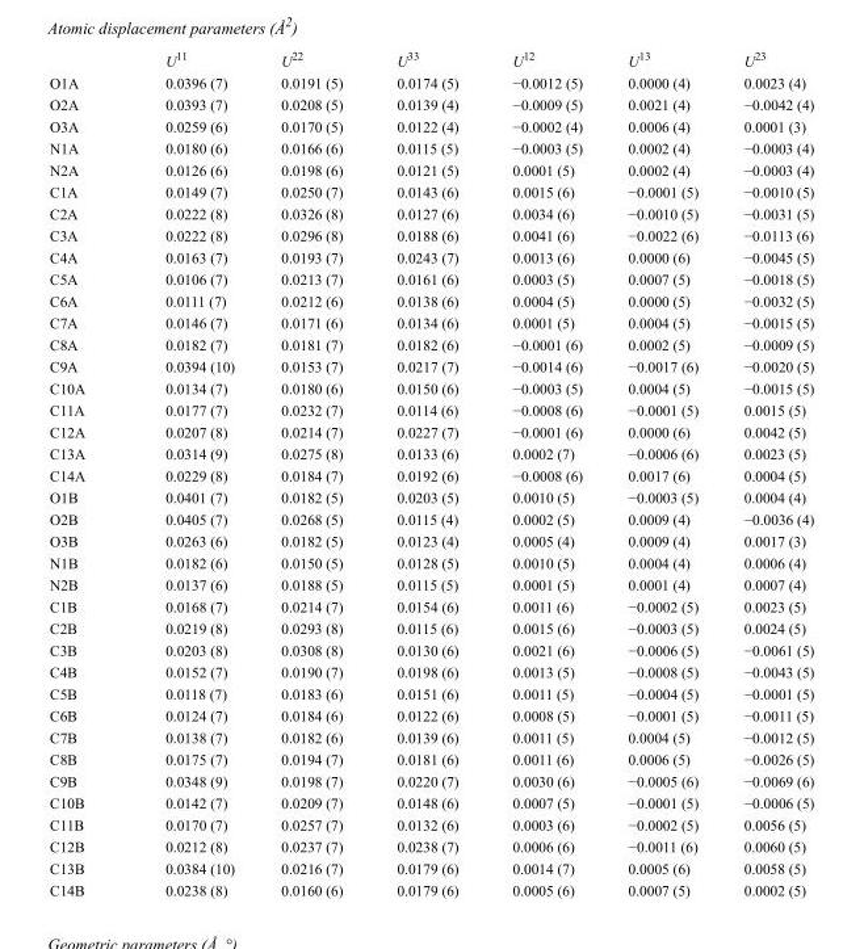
<table><thead><tr><td></td><td>U<sup>11</sup></td><td>U<sup>22</sup></td><td>U<sup>33</sup></td><td>U<sup>12</sup></td><td>U<sup>13</sup></td><td>U<sup>23</sup></td></tr></thead><tbody><tr><td>O1A</td><td>0.0396 (7)</td><td>0.0191 (5)</td><td>0.0174 (5)</td><td>−0.0012 (5)</td><td>0.0000 (4)</td><td>0.0023 (4)</td></tr><tr><td>O2A</td><td>0.0393 (7)</td><td>0.0208 (5)</td><td>0.0139 (4)</td><td>−0.0009 (5)</td><td>0.0021 (4)</td><td>−0.0042 (4)</td></tr><tr><td>O3A</td><td>0.0259 (6)</td><td>0.0170 (5)</td><td>0.0122 (4)</td><td>−0.0002 (4)</td><td>0.0006 (4)</td><td>0.0001 (3)</td></tr><tr><td>N1A</td><td>0.0180 (6)</td><td>0.0166 (6)</td><td>0.0115 (5)</td><td>−0.0003 (5)</td><td>0.0002 (4)</td><td>−0.0003 (4)</td></tr><tr><td>N2A</td><td>0.0126 (6)</td><td>0.0198 (6)</td><td>0.0121 (5)</td><td>0.0001 (5)</td><td>0.0002 (4)</td><td>−0.0003 (4)</td></tr><tr><td>C1A</td><td>0.0149 (7)</td><td>0.0250 (7)</td><td>0.0143 (6)</td><td>0.0015 (6)</td><td>−0.0001 (5)</td><td>−0.0010 (5)</td></tr><tr><td>C2A</td><td>0.0222 (8)</td><td>0.0326 (8)</td><td>0.0127 (6)</td><td>0.0034 (6)</td><td>−0.0010 (5)</td><td>−0.0031 (5)</td></tr><tr><td>C3A</td><td>0.0222 (8)</td><td>0.0296 (8)</td><td>0.0188 (6)</td><td>0.0041 (6)</td><td>−0.0022 (6)</td><td>−0.0113 (6)</td></tr><tr><td>C4A</td><td>0.0163 (7)</td><td>0.0193 (7)</td><td>0.0243 (7)</td><td>0.0013 (6)</td><td>0.0000 (6)</td><td>−0.0045 (5)</td></tr><tr><td>C5A</td><td>0.0106 (7)</td><td>0.0213 (7)</td><td>0.0161 (6)</td><td>0.0003 (5)</td><td>0.0007 (5)</td><td>−0.0018 (5)</td></tr><tr><td>C6A</td><td>0.0111 (7)</td><td>0.0212 (6)</td><td>0.0138 (6)</td><td>0.0004 (5)</td><td>0.0000 (5)</td><td>−0.0032 (5)</td></tr><tr><td>C7A</td><td>0.0146 (7)</td><td>0.0171 (6)</td><td>0.0134 (6)</td><td>0.0001 (5)</td><td>0.0004 (5)</td><td>−0.0015 (5)</td></tr><tr><td>C8A</td><td>0.0182 (7)</td><td>0.0181 (7)</td><td>0.0182 (6)</td><td>−0.0001 (6)</td><td>0.0002 (5)</td><td>−0.0009 (5)</td></tr><tr><td>C9A</td><td>0.0394 (10)</td><td>0.0153 (7)</td><td>0.0217 (7)</td><td>−0.0014 (6)</td><td>−0.0017 (6)</td><td>−0.0020 (5)</td></tr><tr><td>C10A</td><td>0.0134 (7)</td><td>0.0180 (6)</td><td>0.0150 (6)</td><td>−0.0003 (5)</td><td>0.0004 (5)</td><td>−0.0015 (5)</td></tr><tr><td>C11A</td><td>0.0177 (7)</td><td>0.0232 (7)</td><td>0.0114 (6)</td><td>−0.0008 (6)</td><td>−0.0001 (5)</td><td>0.0015 (5)</td></tr><tr><td>C12A</td><td>0.0207 (8)</td><td>0.0214 (7)</td><td>0.0227 (7)</td><td>−0.0001 (6)</td><td>0.0000 (6)</td><td>0.0042 (5)</td></tr><tr><td>C13A</td><td>0.0314 (9)</td><td>0.0275 (8)</td><td>0.0133 (6)</td><td>0.0002 (7)</td><td>−0.0006 (6)</td><td>0.0023 (5)</td></tr><tr><td>C14A</td><td>0.0229 (8)</td><td>0.0184 (7)</td><td>0.0192 (6)</td><td>−0.0008 (6)</td><td>0.0017 (6)</td><td>0.0004 (5)</td></tr><tr><td>O1B</td><td>0.0401 (7)</td><td>0.0182 (5)</td><td>0.0203 (5)</td><td>0.0010 (5)</td><td>−0.0003 (5)</td><td>0.0004 (4)</td></tr><tr><td>O2B</td><td>0.0405 (7)</td><td>0.0268 (5)</td><td>0.0115 (4)</td><td>0.0002 (5)</td><td>0.0009 (4)</td><td>−0.0036 (4)</td></tr><tr><td>O3B</td><td>0.0263 (6)</td><td>0.0182 (5)</td><td>0.0123 (4)</td><td>0.0005 (4)</td><td>0.0009 (4)</td><td>0.0017 (3)</td></tr><tr><td>N1B</td><td>0.0182 (6)</td><td>0.0150 (5)</td><td>0.0128 (5)</td><td>0.0010 (5)</td><td>0.0004 (4)</td><td>0.0006 (4)</td></tr><tr><td>N2B</td><td>0.0137 (6)</td><td>0.0188 (5)</td><td>0.0115 (5)</td><td>0.0001 (5)</td><td>0.0001 (4)</td><td>0.0007 (4)</td></tr><tr><td>C1B</td><td>0.0168 (7)</td><td>0.0214 (7)</td><td>0.0154 (6)</td><td>0.0011 (6)</td><td>−0.0002 (5)</td><td>0.0023 (5)</td></tr><tr><td>C2B</td><td>0.0219 (8)</td><td>0.0293 (8)</td><td>0.0115 (6)</td><td>0.0015 (6)</td><td>−0.0003 (5)</td><td>0.0024 (5)</td></tr><tr><td>C3B</td><td>0.0203 (8)</td><td>0.0308 (8)</td><td>0.0130 (6)</td><td>0.0021 (6)</td><td>−0.0006 (5)</td><td>−0.0061 (5)</td></tr><tr><td>C4B</td><td>0.0152 (7)</td><td>0.0190 (7)</td><td>0.0198 (6)</td><td>0.0013 (5)</td><td>−0.0008 (5)</td><td>−0.0043 (5)</td></tr><tr><td>C5B</td><td>0.0118 (7)</td><td>0.0183 (6)</td><td>0.0151 (6)</td><td>0.0011 (5)</td><td>−0.0004 (5)</td><td>−0.0001 (5)</td></tr><tr><td>C6B</td><td>0.0124 (7)</td><td>0.0184 (6)</td><td>0.0122 (6)</td><td>0.0008 (5)</td><td>−0.0001 (5)</td><td>−0.0011 (5)</td></tr><tr><td>C7B</td><td>0.0138 (7)</td><td>0.0182 (6)</td><td>0.0139 (6)</td><td>0.0011 (5)</td><td>0.0004 (5)</td><td>−0.0012 (5)</td></tr><tr><td>C8B</td><td>0.0175 (7)</td><td>0.0194 (7)</td><td>0.0181 (6)</td><td>0.0011 (6)</td><td>0.0006 (5)</td><td>−0.0026 (5)</td></tr><tr><td>C9B</td><td>0.0348 (9)</td><td>0.0198 (7)</td><td>0.0220 (7)</td><td>0.0030 (6)</td><td>−0.0005 (6)</td><td>−0.0069 (6)</td></tr><tr><td>C10B</td><td>0.0142 (7)</td><td>0.0209 (7)</td><td>0.0148 (6)</td><td>0.0007 (5)</td><td>−0.0001 (5)</td><td>−0.0006 (5)</td></tr><tr><td>C11B</td><td>0.0170 (7)</td><td>0.0257 (7)</td><td>0.0132 (6)</td><td>0.0003 (6)</td><td>−0.0002 (5)</td><td>0.0056 (5)</td></tr><tr><td>C12B</td><td>0.0212 (8)</td><td>0.0237 (7)</td><td>0.0238 (7)</td><td>0.0006 (6)</td><td>−0.0011 (6)</td><td>0.0060 (5)</td></tr><tr><td>C13B</td><td>0.0384 (10)</td><td>0.0216 (7)</td><td>0.0179 (6)</td><td>0.0014 (7)</td><td>0.0005 (6)</td><td>0.0058 (5)</td></tr><tr><td>C14B</td><td>0.0238 (8)</td><td>0.0160 (6)</td><td>0.0179 (6)</td><td>0.0005 (6)</td><td>0.0007 (5)</td><td>0.0002 (5)</td></tr></tbody></table>